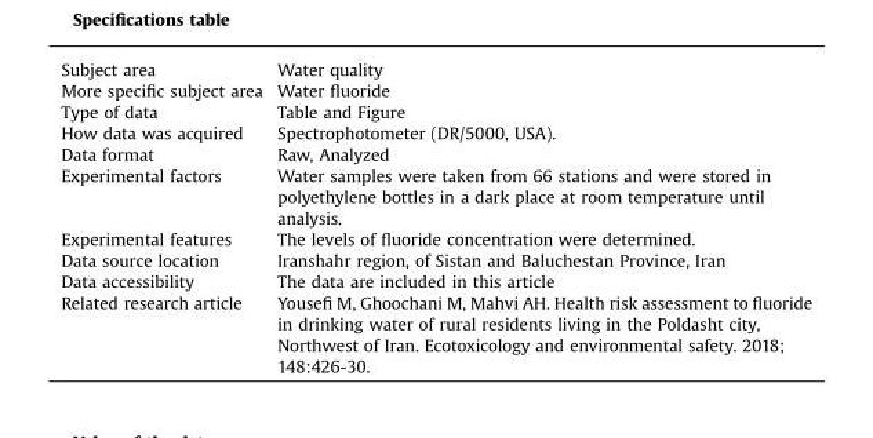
<table><tbody><tr><td>Subject area</td><td>Water quality</td></tr><tr><td>More specific subject area</td><td>Water fluoride</td></tr><tr><td>Type of data</td><td>Table and Figure</td></tr><tr><td>How data was acquired</td><td>Spectrophotometer (DR/5000, USA).</td></tr><tr><td>Data format</td><td>Raw, Analyzed</td></tr><tr><td>Experimental factors</td><td>Water samples were taken from 66 stations and were stored in polyethylene bottles in a dark place at room temperature until analysis.</td></tr><tr><td>Experimental features</td><td>The levels of fluoride concentration were determined.</td></tr><tr><td>Data source location</td><td>Iranshahr region, of Sistan and Baluchestan Province, Iran</td></tr><tr><td>Data accessibility</td><td>The data are included in this article</td></tr><tr><td>Related research article</td><td>Yousefi M, Ghoochani M, Mahvi AH. Health risk assessment to fluoride in drinking water of rural residents living in the Poldasht city, Northwest of Iran. Ecotoxicology and environmental safety. 2018; 148:426-30.</td></tr></tbody></table>